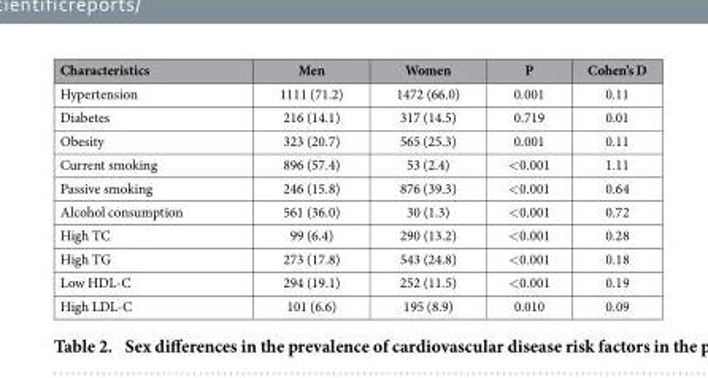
<table><thead><tr><td>Characteristics</td><td>Men</td><td>Women</td><td>P</td><td>Cohen’s D</td></tr></thead><tbody><tr><td>Hypertension</td><td>1111 (71.2)</td><td>1472 (66.0)</td><td>0.001</td><td>0.11</td></tr><tr><td>Diabetes</td><td>216 (14.1)</td><td>317 (14.5)</td><td>0.719</td><td>0.01</td></tr><tr><td>Obesity</td><td>323 (20.7)</td><td>565 (25.3)</td><td>0.001</td><td>0.11</td></tr><tr><td>Current smoking</td><td>896 (57.4)</td><td>53 (2.4)</td><td>&lt; 0.001</td><td>1.11</td></tr><tr><td>Passive smoking</td><td>246 (15.8)</td><td>876 (39.3)</td><td>&lt; 0.001</td><td>0.64</td></tr><tr><td>Alcohol consumption</td><td>561 (36.0)</td><td>30 (1.3)</td><td>&lt; 0.001</td><td>0.72</td></tr><tr><td>High TC</td><td>99 (6.4)</td><td>290 (13.2)</td><td>&lt; 0.001</td><td>0.28</td></tr><tr><td>High TG</td><td>273 (17.8)</td><td>543 (24.8)</td><td>&lt; 0.001</td><td>0.18</td></tr><tr><td>Low HDL-C</td><td>294 (19.1)</td><td>252 (11.5)</td><td>&lt; 0.001</td><td>0.19</td></tr><tr><td>High LDL-C</td><td>101 (6.6)</td><td>195 (8.9)</td><td>0.010</td><td>0.09</td></tr></tbody></table>